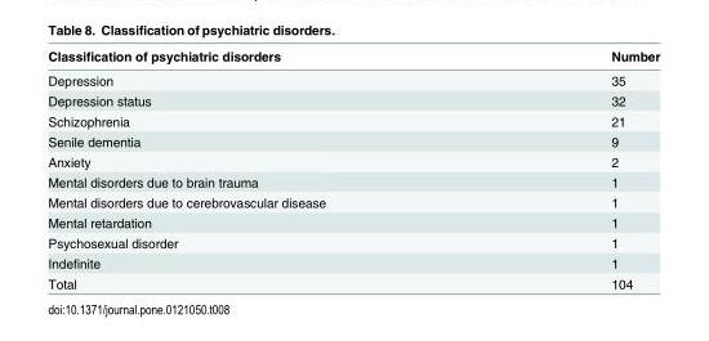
<table><thead><tr><td>Classification of psychiatric disorders</td><td>Number</td></tr></thead><tbody><tr><td>Depression</td><td>35</td></tr><tr><td>Depression status</td><td>32</td></tr><tr><td>Schizophrenia</td><td>21</td></tr><tr><td>Senile dementia</td><td>9</td></tr><tr><td>Anxiety</td><td>2</td></tr><tr><td>Mental disorders due to brain trauma</td><td>1</td></tr><tr><td>Mental disorders due to cerebrovascular disease</td><td>1</td></tr><tr><td>Mental retardation</td><td>1</td></tr><tr><td>Psychosexual disorder</td><td>1</td></tr><tr><td>Indefinite</td><td>1</td></tr><tr><td>Total</td><td>104</td></tr></tbody></table>